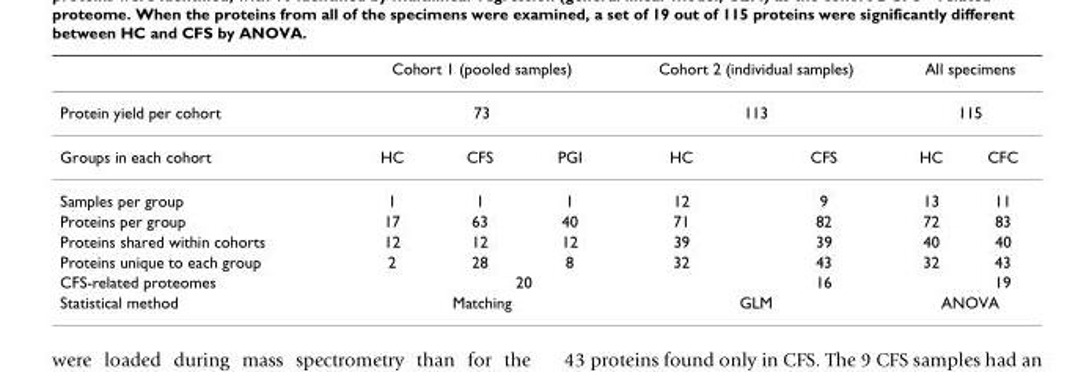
<table><thead><tr><td rowspan="3">Protein yield per cohort Groups in each cohort</td><td rowspan="2" colspan="3">Cohort 1 (pooled samples) 73</td><td rowspan="2" colspan="2">Cohort 2 (individual samples) 113</td><td rowspan="2" colspan="2">All specimens 115</td></tr><tr></tr><tr><td>HC</td><td>CFS</td><td>PGI</td><td>HC</td><td>CFS</td><td>HC</td><td>CFC</td></tr></thead><tbody><tr><td>Samples per group</td><td>1</td><td>1</td><td>1</td><td>12</td><td>9</td><td>13</td><td>11</td></tr><tr><td>Proteins per group</td><td>17</td><td>63</td><td>40</td><td>71</td><td>82</td><td>72</td><td>83</td></tr><tr><td>Proteins shared within cohorts</td><td>12</td><td>12</td><td>12</td><td>39</td><td>39</td><td>40</td><td>40</td></tr><tr><td>Proteins unique to each group</td><td>2</td><td>28</td><td>8</td><td>32</td><td>43</td><td>32</td><td>43</td></tr><tr><td>CFS-related proteomes</td><td></td><td colspan="2">20</td><td></td><td>16</td><td></td><td>19</td></tr><tr><td>Statistical method</td><td colspan="3">Matching</td><td colspan="2">GLM</td><td colspan="2">ANOVA</td></tr></tbody></table>